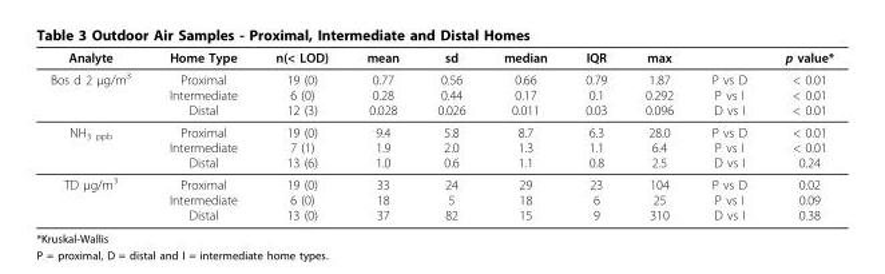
<table><thead><tr><td>Analyte</td><td>Home Type</td><td>n(&lt; LOD)</td><td>mean</td><td>sd</td><td>median</td><td>IQR</td><td>max</td><td></td><td>p value*</td></tr></thead><tbody><tr><td>Bos d 2 μg/m<sup>3</sup></td><td>Proximal Intermediate Distal</td><td>19 (0) 6 (0) 12 (3)</td><td>0.77 0.28 0.028</td><td>0.56 0.44 0.026</td><td>0.66 0.17 0.011</td><td>0.79 0.1 0.03</td><td>1.87 0.292 0.096</td><td>P vs D P vs I D vs I</td><td>&lt; 0.01 &lt; 0.01 &lt; 0.01</td></tr><tr><td>NH<sub>3 ppb</sub></td><td>Proximal Intermediate Distal</td><td>19 (0) 7 (1) 13 (6)</td><td>9.4 1.9 1.0</td><td>5.8 2.0 0.6</td><td>8.7 1.3 1.1</td><td>6.3 1.1 0.8</td><td>28.0 6.4 2.5</td><td>P vs D P vs I D vs I</td><td>&lt; 0.01 &lt; 0.01 0.24</td></tr><tr><td>TD μg/m<sup>3</sup></td><td>Proximal Intermediate Distal</td><td>19 (0) 6 (0) 13 (0)</td><td>33 18 37</td><td>24 5 82</td><td>29 18 15</td><td>23 6 9</td><td>104 25 310</td><td>P vs D P vs I D vs I</td><td>0.02 0.09 0.38</td></tr></tbody></table>